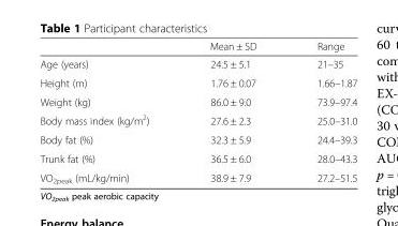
<table><thead><tr><td></td><td>Mean ± SD</td><td>Range</td></tr></thead><tbody><tr><td>Age (years)</td><td>24.5 ± 5.1</td><td>21–35</td></tr><tr><td>Height (m)</td><td>1.76 ± 0.07</td><td>1.66–1.87</td></tr><tr><td>Weight (kg)</td><td>86.0 ± 9.0</td><td>73.9–97.4</td></tr><tr><td>Body mass index (kg/m<sup>2</sup>)</td><td>27.6 ± 2.3</td><td>25.0–31.0</td></tr><tr><td>Body fat (%)</td><td>32.3 ± 5.9</td><td>24.4–39.3</td></tr><tr><td>Trunk fat (%)</td><td>36.5 ± 6.0</td><td>28.0–43.3</td></tr><tr><td>VO<sub>2peak</sub> (mL/kg/min)</td><td>38.9 ± 7.9</td><td>27.2–51.5</td></tr></tbody></table>